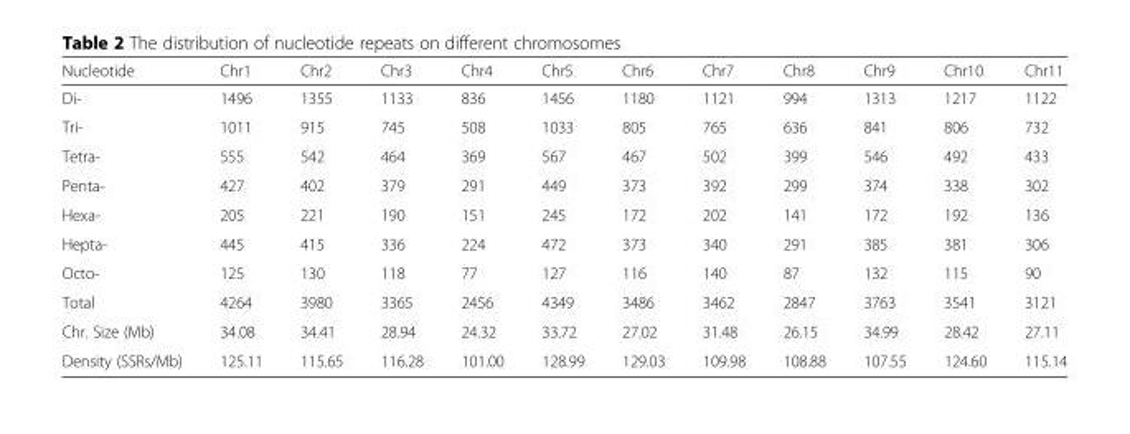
<table><thead><tr><td>Nucleotide</td><td>Chr1</td><td>Chr2</td><td>Chr3</td><td>Chr4</td><td>Chr5</td><td>Chr6</td><td>Chr7</td><td>Chr8</td><td>Chr9</td><td>Chr10</td><td>Chr11</td></tr></thead><tbody><tr><td>Di-</td><td>1496</td><td>1355</td><td>1133</td><td>836</td><td>1456</td><td>1180</td><td>1121</td><td>994</td><td>1313</td><td>1217</td><td>1122</td></tr><tr><td>Tri-</td><td>1011</td><td>915</td><td>745</td><td>508</td><td>1033</td><td>805</td><td>765</td><td>636</td><td>841</td><td>806</td><td>732</td></tr><tr><td>Tetra-</td><td>555</td><td>542</td><td>464</td><td>369</td><td>567</td><td>467</td><td>502</td><td>399</td><td>546</td><td>492</td><td>433</td></tr><tr><td>Penta-</td><td>427</td><td>402</td><td>379</td><td>291</td><td>449</td><td>373</td><td>392</td><td>299</td><td>374</td><td>338</td><td>302</td></tr><tr><td>Hexa-</td><td>205</td><td>221</td><td>190</td><td>151</td><td>245</td><td>172</td><td>202</td><td>141</td><td>172</td><td>192</td><td>136</td></tr><tr><td>Hepta-</td><td>445</td><td>415</td><td>336</td><td>224</td><td>472</td><td>373</td><td>340</td><td>291</td><td>385</td><td>381</td><td>306</td></tr><tr><td>Octo-</td><td>125</td><td>130</td><td>118</td><td>77</td><td>127</td><td>116</td><td>140</td><td>87</td><td>132</td><td>115</td><td>90</td></tr><tr><td>Total</td><td>4264</td><td>3980</td><td>3365</td><td>2456</td><td>4349</td><td>3486</td><td>3462</td><td>2847</td><td>3763</td><td>3541</td><td>3121</td></tr><tr><td>Chr. Size (Mb)</td><td>34.08</td><td>34.41</td><td>28.94</td><td>24.32</td><td>33.72</td><td>27.02</td><td>31.48</td><td>26.15</td><td>34.99</td><td>28.42</td><td>27.11</td></tr><tr><td>Density (SSRs/Mb)</td><td>125.11</td><td>115.65</td><td>116.28</td><td>101.00</td><td>128.99</td><td>129.03</td><td>109.98</td><td>108.88</td><td>107.55</td><td>124.60</td><td>115.14</td></tr></tbody></table>